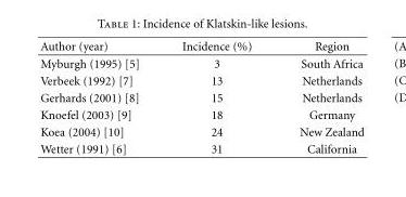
<table><thead><tr><td>Author (year)</td><td>Incidence (%)</td><td>Region</td></tr></thead><tbody><tr><td>Myburgh (1995) [5]</td><td>3</td><td>South Africa</td></tr><tr><td>Verbeek (1992) [7]</td><td>13</td><td>Netherlands</td></tr><tr><td>Gerhards (2001) [8]</td><td>15</td><td>Netherlands</td></tr><tr><td>Knoefel (2003) [9]</td><td>18</td><td>Germany</td></tr><tr><td>Koea (2004) [10]</td><td>24</td><td>New Zealand</td></tr><tr><td>Wetter (1991) [6]</td><td>31</td><td>California</td></tr></tbody></table>